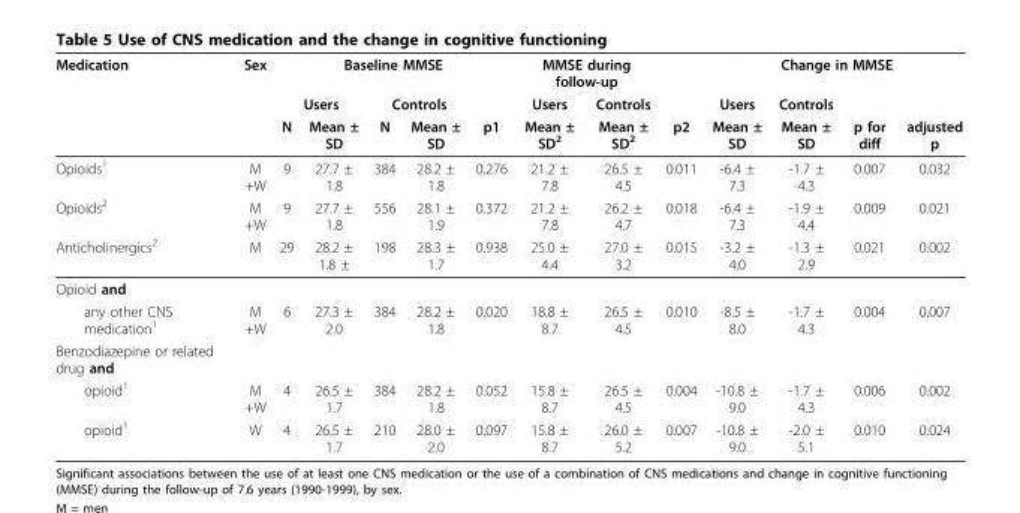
<table><thead><tr><td rowspan="3">Medication</td><td rowspan="3">Sex</td><td colspan="5">Baseline MMSE</td><td colspan="2">MMSE during follow-up</td><td rowspan="3">p2</td><td colspan="4">Change in MMSE</td></tr><tr><td colspan="2">Users</td><td colspan="2">Controls</td><td rowspan="2">p1</td><td rowspan="2">Users Mean ± SD<sup>2</sup></td><td rowspan="2">Controls Mean ± SD<sup>2</sup></td><td rowspan="2">Users Mean ± SD</td><td rowspan="2">Controls Mean ± SD</td><td rowspan="2">p for diff</td><td rowspan="2">adjusted p</td></tr><tr><td>N</td><td>Mean ± SD</td><td>N</td><td>Mean ± SD</td></tr></thead><tbody><tr><td>Opioids<sup>1</sup></td><td>M +W</td><td>9</td><td>27.7 ± 1.8</td><td>384</td><td>28.2 ± 1.8</td><td>0.276</td><td>21.2 ± 7.8</td><td>26.5 ± 4.5</td><td>0.011</td><td>-6.4 ± 7.3</td><td>-1.7 ± 4.3</td><td>0.007</td><td>0.032</td></tr><tr><td>Opioids<sup>2</sup></td><td>M +W</td><td>9</td><td>27.7 ± 1.8</td><td>556</td><td>28.1 ± 1.9</td><td>0.372</td><td>21.2 ± 7.8</td><td>26.2 ± 4.7</td><td>0.018</td><td>-6.4 ± 7.3</td><td>-1.9 ± 4.4</td><td>0.009</td><td>0.021</td></tr><tr><td>Anticholinergics<sup>2</sup></td><td>M</td><td>29</td><td>28.2 ± 1.8 ±</td><td>198</td><td>28.3 ± 1.7</td><td>0.938</td><td>25.0 ± 4.4</td><td>27.0 ± 3.2</td><td>0.015</td><td>-3.2 ± 4.0</td><td>-1.3 ± 2.9</td><td>0.021</td><td>0.002</td></tr><tr><td colspan="14">Opioid and</td></tr><tr><td>any other CNS medication<sup>1</sup></td><td>M +W</td><td>6</td><td>27.3 ± 2.0</td><td>384</td><td>28.2 ± 1.8</td><td>0.020</td><td>18.8 ± 8.7</td><td>26.5 ± 4.5</td><td>0.010</td><td>-8.5 ± 8.0</td><td>-1.7 ± 4.3</td><td>0.004</td><td>0.007</td></tr><tr><td colspan="14">Benzodiazepine or related drug and</td></tr><tr><td>opioid<sup>1</sup></td><td>M +W</td><td>4</td><td>26.5 ± 1.7</td><td>384</td><td>28.2 ± 1.8</td><td>0.052</td><td>15.8 ± 8.7</td><td>26.5 ± 4.5</td><td>0.004</td><td>-10.8 ± 9.0</td><td>-1.7 ± 4.3</td><td>0.006</td><td>0.002</td></tr><tr><td>opioid<sup>1</sup></td><td>W</td><td>4</td><td>26.5 ± 1.7</td><td>210</td><td>28.0 ± 2.0</td><td>0.097</td><td>15.8 ± 8.7</td><td>26.0 ± 5.2</td><td>0.007</td><td>-10.8 ± 9.0</td><td>-2.0 ± 5.1</td><td>0.010</td><td>0.024</td></tr></tbody></table>